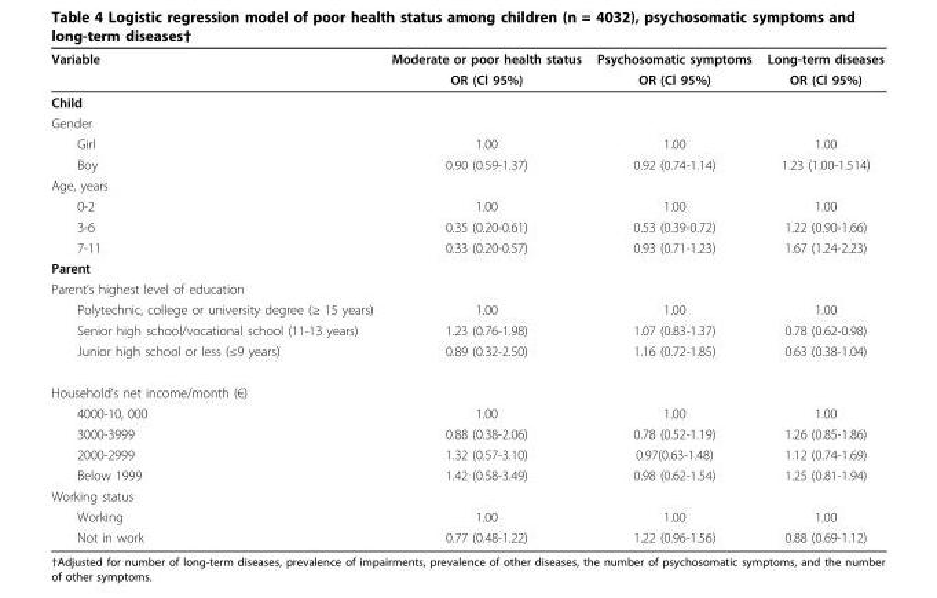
<table><thead><tr><td rowspan="2">Variable</td><td rowspan="2">Moderate or poor health status OR (Cl 95%)</td><td rowspan="2">Psychosomatic symptoms OR (Cl 95%)</td><td rowspan="2">Long-term diseases OR (Cl 95%)</td></tr><tr></tr></thead><tbody><tr><td colspan="4">Child</td></tr><tr><td colspan="4">Gender</td></tr><tr><td>Girl</td><td>1.00</td><td>1.00</td><td>1.00</td></tr><tr><td>Boy</td><td>0.90 (0.59-1.37)</td><td>0.92 (0.74-1.14)</td><td>1.23 (1.00-1.514)</td></tr><tr><td colspan="4">Age, years</td></tr><tr><td>0-2</td><td>1.00</td><td>1.00</td><td>1.00</td></tr><tr><td>3-6</td><td>0.35 (0.20-0.61)</td><td>0.53 (0.39-0.72)</td><td>1.22 (0.90-1.66)</td></tr><tr><td>7-11</td><td>0.33 (0.20-0.57)</td><td>0.93 (0.71-1.23)</td><td>1.67 (1.24-2.23)</td></tr><tr><td colspan="4">Parent</td></tr><tr><td colspan="4">Parent’s highest level of education</td></tr><tr><td>Polytechnic, college or university degree (≥ 15 years)</td><td>1.00</td><td>1.00</td><td>1.00</td></tr><tr><td>Senior high school/vocational school (11-13 years)</td><td>1.23 (0.76-1.98)</td><td>1.07 (0.83-1.37)</td><td>0.78 (0.62-0.98)</td></tr><tr><td>Junior high school or less (≤9 years)</td><td>0.89 (0.32-2.50)</td><td>1.16 (0.72-1.85)</td><td>0.63 (0.38-1.04)</td></tr><tr><td colspan="4">Household’s net income/month (€)</td></tr><tr><td>4000-10, 000</td><td>1.00</td><td>1.00</td><td>1.00</td></tr><tr><td>3000-3999</td><td>0.88 (0.38-2.06)</td><td>0.78 (0.52-1.19)</td><td>1.26 (0.85-1.86)</td></tr><tr><td>2000-2999</td><td>1.32 (0.57-3.10)</td><td>0.97(0.63-1.48)</td><td>1.12 (0.74-1.69)</td></tr><tr><td>Below 1999</td><td>1.42 (0.58-3.49)</td><td>0.98 (0.62-1.54)</td><td>1.25 (0.81-1.94)</td></tr><tr><td colspan="4">Working status</td></tr><tr><td>Working</td><td>1.00</td><td>1.00</td><td>1.00</td></tr><tr><td>Not in work</td><td>0.77 (0.48-1.22)</td><td>1.22 (0.96-1.56)</td><td>0.88 (0.69-1.12)</td></tr></tbody></table>